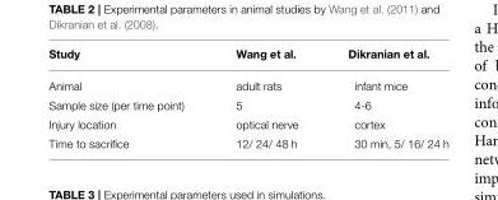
<table><thead><tr><td>Study</td><td>Wang et al.</td><td>Dikranian et al.</td></tr></thead><tbody><tr><td>Animal</td><td>adult rats</td><td>infant mice</td></tr><tr><td>Sample size (per time point)</td><td>5</td><td>4-6</td></tr><tr><td>Injury location</td><td>optical nerve</td><td>cortex</td></tr><tr><td>Time to sacrifice</td><td>12/ 24/ 48 h</td><td>30 min, 5/ 16/ 24 h</td></tr></tbody></table>